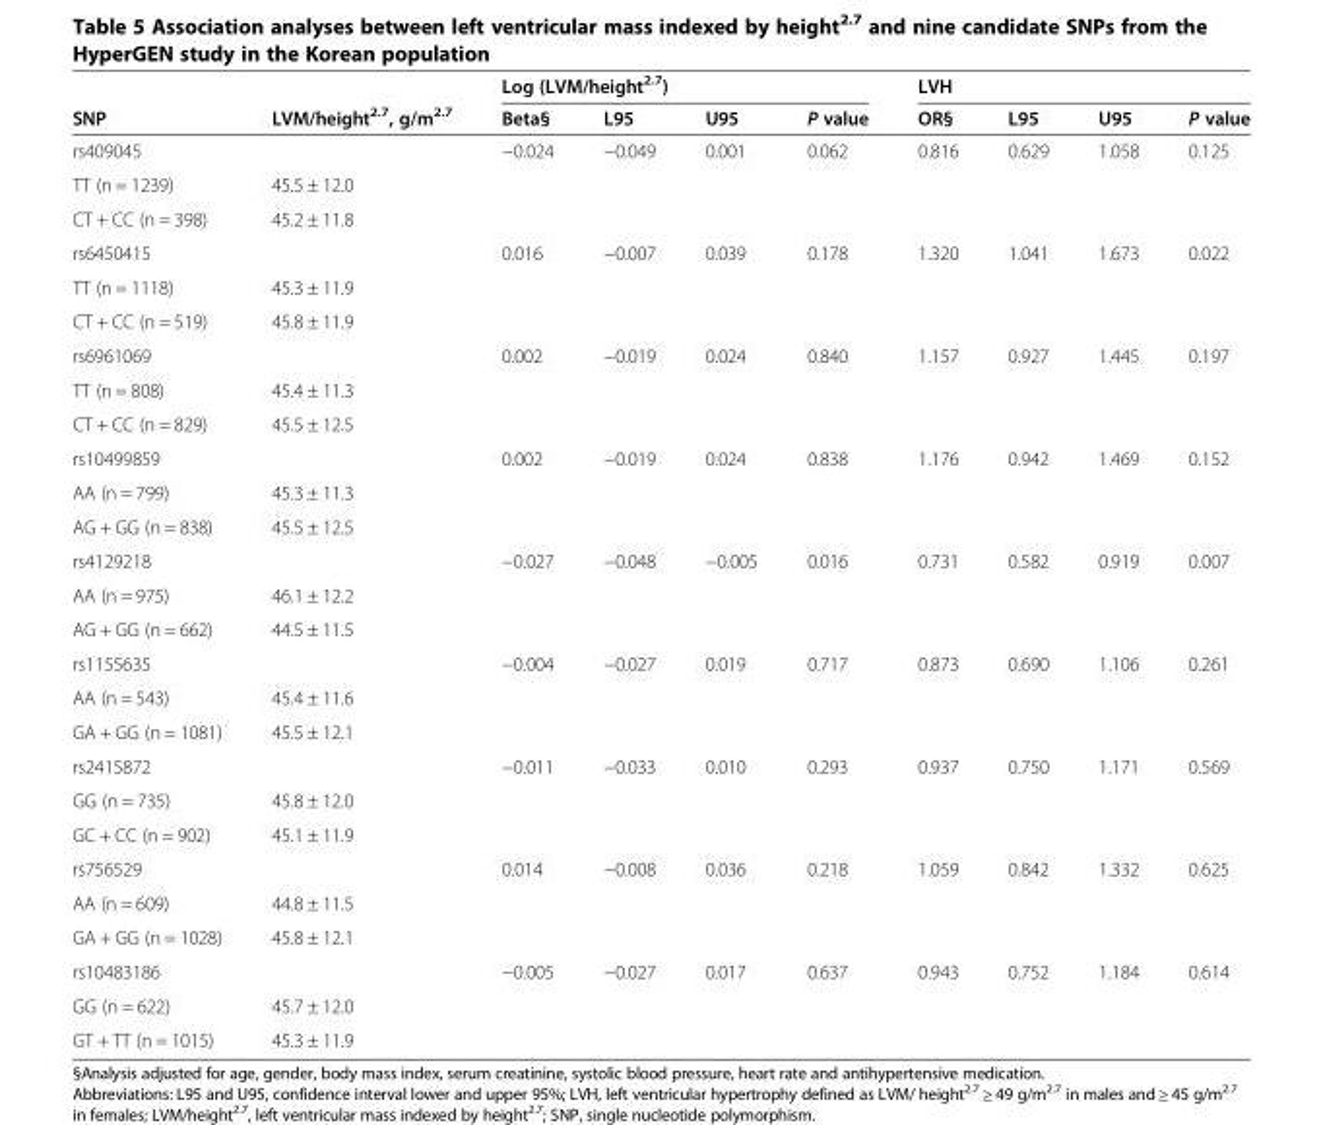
<table><thead><tr><td rowspan="2">SNP</td><td rowspan="2">LVM/height<sup>2.7</sup>, g/m<sup>2.7</sup></td><td colspan="4">Log (LVM/height<sup>2.7</sup>)</td><td colspan="4">LVH</td></tr><tr><td>Beta§</td><td>L95</td><td>U95</td><td>P value</td><td>OR§</td><td>L95</td><td>U95</td><td>P value</td></tr></thead><tbody><tr><td>rs409045</td><td></td><td>−0.024</td><td>−0.049</td><td>0.001</td><td>0.062</td><td>0.816</td><td>0.629</td><td>1.058</td><td>0.125</td></tr><tr><td>TT (n = 1239)</td><td>45.5 ± 12.0</td><td></td><td></td><td></td><td></td><td></td><td></td><td></td><td></td></tr><tr><td>CT + CC (n = 398)</td><td>45.2 ± 11.8</td><td></td><td></td><td></td><td></td><td></td><td></td><td></td><td></td></tr><tr><td>rs6450415</td><td></td><td>0.016</td><td>−0.007</td><td>0.039</td><td>0.178</td><td>1.320</td><td>1.041</td><td>1.673</td><td>0.022</td></tr><tr><td>TT (n = 1118)</td><td>45.3 ± 11.9</td><td></td><td></td><td></td><td></td><td></td><td></td><td></td><td></td></tr><tr><td>CT + CC (n = 519)</td><td>45.8 ± 11.9</td><td></td><td></td><td></td><td></td><td></td><td></td><td></td><td></td></tr><tr><td>rs6961069</td><td></td><td>0.002</td><td>−0.019</td><td>0.024</td><td>0.840</td><td>1.157</td><td>0.927</td><td>1.445</td><td>0.197</td></tr><tr><td>TT (n = 808)</td><td>45.4 ± 11.3</td><td></td><td></td><td></td><td></td><td></td><td></td><td></td><td></td></tr><tr><td>CT + CC (n = 829)</td><td>45.5 ± 12.5</td><td></td><td></td><td></td><td></td><td></td><td></td><td></td><td></td></tr><tr><td>rs10499859</td><td></td><td>0.002</td><td>−0.019</td><td>0.024</td><td>0.838</td><td>1.176</td><td>0.942</td><td>1.469</td><td>0.152</td></tr><tr><td>AA (n = 799)</td><td>45.3 ± 11.3</td><td></td><td></td><td></td><td></td><td></td><td></td><td></td><td></td></tr><tr><td>AG + GG (n = 838)</td><td>45.5 ± 12.5</td><td></td><td></td><td></td><td></td><td></td><td></td><td></td><td></td></tr><tr><td>rs4129218</td><td></td><td>−0.027</td><td>−0.048</td><td>−0.005</td><td>0.016</td><td>0.731</td><td>0.582</td><td>0.919</td><td>0.007</td></tr><tr><td>AA (n = 975)</td><td>46.1 ± 12.2</td><td></td><td></td><td></td><td></td><td></td><td></td><td></td><td></td></tr><tr><td>AG + GG (n = 662)</td><td>44.5 ± 11.5</td><td></td><td></td><td></td><td></td><td></td><td></td><td></td><td></td></tr><tr><td>rs1155635</td><td></td><td>−0.004</td><td>−0.027</td><td>0.019</td><td>0.717</td><td>0.873</td><td>0.690</td><td>1.106</td><td>0.261</td></tr><tr><td>AA (n = 543)</td><td>45.4 ± 11.6</td><td></td><td></td><td></td><td></td><td></td><td></td><td></td><td></td></tr><tr><td>GA + GG (n = 1081)</td><td>45.5 ± 12.1</td><td></td><td></td><td></td><td></td><td></td><td></td><td></td><td></td></tr><tr><td>rs2415872</td><td></td><td>−0.011</td><td>−0.033</td><td>0.010</td><td>0.293</td><td>0.937</td><td>0.750</td><td>1.171</td><td>0.569</td></tr><tr><td>GG (n = 735)</td><td>45.8 ± 12.0</td><td></td><td></td><td></td><td></td><td></td><td></td><td></td><td></td></tr><tr><td>GC + CC (n = 902)</td><td>45.1 ± 11.9</td><td></td><td></td><td></td><td></td><td></td><td></td><td></td><td></td></tr><tr><td>rs756529</td><td></td><td>0.014</td><td>−0.008</td><td>0.036</td><td>0.218</td><td>1.059</td><td>0.842</td><td>1.332</td><td>0.625</td></tr><tr><td>AA (n = 609)</td><td>44.8 ± 11.5</td><td></td><td></td><td></td><td></td><td></td><td></td><td></td><td></td></tr><tr><td>GA + GG (n = 1028)</td><td>45.8 ± 12.1</td><td></td><td></td><td></td><td></td><td></td><td></td><td></td><td></td></tr><tr><td>rs10483186</td><td></td><td>−0.005</td><td>−0.027</td><td>0.017</td><td>0.637</td><td>0.943</td><td>0.752</td><td>1.184</td><td>0.614</td></tr><tr><td>GG (n = 622)</td><td>45.7 ± 12.0</td><td></td><td></td><td></td><td></td><td></td><td></td><td></td><td></td></tr><tr><td>GT + TT (n = 1015)</td><td>45.3 ± 11.9</td><td></td><td></td><td></td><td></td><td></td><td></td><td></td><td></td></tr></tbody></table>